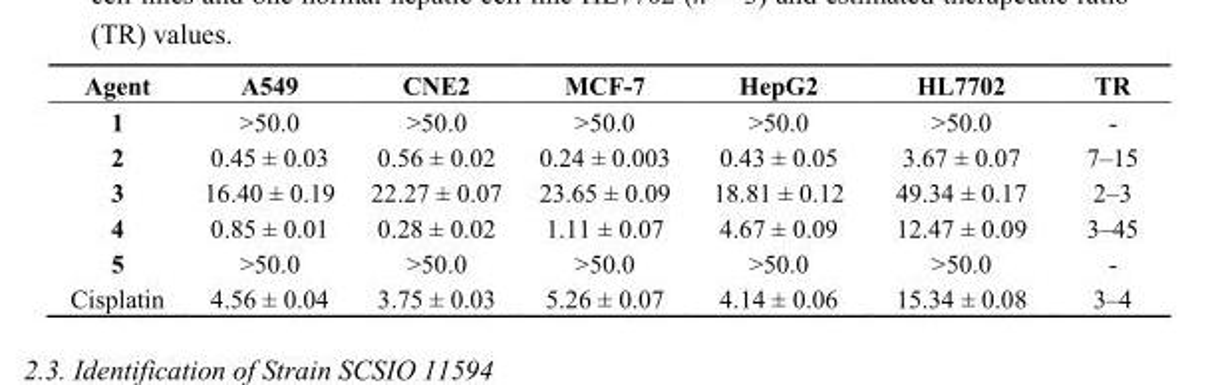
<table><thead><tr><td>Agent</td><td>A549</td><td>CNE2</td><td>MCF-7</td><td>HepG2</td><td>HL7702</td><td>TR</td></tr></thead><tbody><tr><td>1</td><td>&gt;50.0</td><td>&gt;50.0</td><td>&gt;50.0</td><td>&gt;50.0</td><td>&gt;50.0</td><td>-</td></tr><tr><td>2</td><td>0.45 ± 0.03</td><td>0.56 ± 0.02</td><td>0.24 ± 0.003</td><td>0.43 ± 0.05</td><td>3.67 ± 0.07</td><td>7–15</td></tr><tr><td>3</td><td>16.40 ± 0.19</td><td>22.27 ± 0.07</td><td>23.65 ± 0.09</td><td>18.81 ± 0.12</td><td>49.34 ± 0.17</td><td>2–3</td></tr><tr><td>4</td><td>0.85 ± 0.01</td><td>0.28 ± 0.02</td><td>1.11 ± 0.07</td><td>4.67 ± 0.09</td><td>12.47 ± 0.09</td><td>3–45</td></tr><tr><td>5</td><td>&gt;50.0</td><td>&gt;50.0</td><td>&gt;50.0</td><td>&gt;50.0</td><td>&gt;50.0</td><td>-</td></tr><tr><td>Cisplatin</td><td>4.56 ± 0.04</td><td>3.75 ± 0.03</td><td>5.26 ± 0.07</td><td>4.14 ± 0.06</td><td>15.34 ± 0.08</td><td>3–4</td></tr></tbody></table>